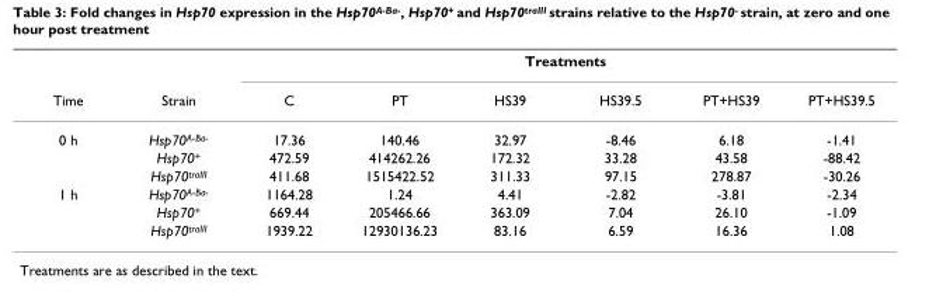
<table><thead><tr><td rowspan="2">Time</td><td rowspan="2">Strain</td><td colspan="6">Treatments</td></tr><tr><td>C</td><td>PT</td><td>HS39</td><td>HS39.5</td><td>PT+HS39</td><td>PT+HS39.5</td></tr></thead><tbody><tr><td rowspan="3">0 h</td><td>Hsp70<sup>A-Ba-</sup></td><td>17.36</td><td>140.46</td><td>32.97</td><td>-8.46</td><td>6.18</td><td>-1.41</td></tr><tr><td>Hsp70<sup>+</sup></td><td>472.59</td><td>414262.26</td><td>172.32</td><td>33.28</td><td>43.58</td><td>-88.42</td></tr><tr><td>Hsp70<sup>traIII</sup></td><td>411.68</td><td>1515422.52</td><td>311.33</td><td>97.15</td><td>278.87</td><td>-30.26</td></tr><tr><td rowspan="3">1 h</td><td>Hsp70<sup>A-Ba-</sup></td><td>1164.28</td><td>1.24</td><td>4.41</td><td>-2.82</td><td>-3.81</td><td>-2.34</td></tr><tr><td>Hsp70<sup>+</sup></td><td>669.44</td><td>205466.66</td><td>363.09</td><td>7.04</td><td>26.10</td><td>-1.09</td></tr><tr><td>Hsp70<sup>traIII</sup></td><td>1939.22</td><td>12930136.23</td><td>83.16</td><td>6.59</td><td>16.36</td><td>1.08</td></tr></tbody></table>